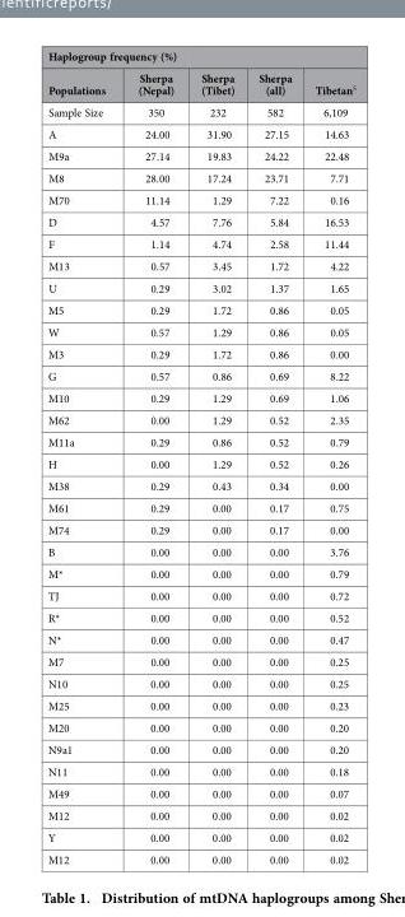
<table><thead><tr><td colspan="5">Haplogroup frequency (%)</td></tr><tr><td>Populations</td><td>Sherpa (Nepal)</td><td>Sherpa (Tibet)</td><td>Sherpa (all)</td><td>Tibetan<sup>5</sup></td></tr></thead><tbody><tr><td>Sample Size</td><td>350</td><td>232</td><td>582</td><td>6,109</td></tr><tr><td>A</td><td>24.00</td><td>31.90</td><td>27.15</td><td>14.63</td></tr><tr><td>M9a</td><td>27.14</td><td>19.83</td><td>24.22</td><td>22.48</td></tr><tr><td>M8</td><td>28.00</td><td>17.24</td><td>23.71</td><td>7.71</td></tr><tr><td>M70</td><td>11.14</td><td>1.29</td><td>7.22</td><td>0.16</td></tr><tr><td>D</td><td>4.57</td><td>7.76</td><td>5.84</td><td>16.53</td></tr><tr><td>F</td><td>1.14</td><td>4.74</td><td>2.58</td><td>11.44</td></tr><tr><td>M13</td><td>0.57</td><td>3.45</td><td>1.72</td><td>4.22</td></tr><tr><td>U</td><td>0.29</td><td>3.02</td><td>1.37</td><td>1.65</td></tr><tr><td>M5</td><td>0.29</td><td>1.72</td><td>0.86</td><td>0.05</td></tr><tr><td>W</td><td>0.57</td><td>1.29</td><td>0.86</td><td>0.05</td></tr><tr><td>M3</td><td>0.29</td><td>1.72</td><td>0.86</td><td>0.00</td></tr><tr><td>G</td><td>0.57</td><td>0.86</td><td>0.69</td><td>8.22</td></tr><tr><td>M10</td><td>0.29</td><td>1.29</td><td>0.69</td><td>1.06</td></tr><tr><td>M62</td><td>0.00</td><td>1.29</td><td>0.52</td><td>2.35</td></tr><tr><td>M11a</td><td>0.29</td><td>0.86</td><td>0.52</td><td>0.79</td></tr><tr><td>H</td><td>0.00</td><td>1.29</td><td>0.52</td><td>0.26</td></tr><tr><td>M38</td><td>0.29</td><td>0.43</td><td>0.34</td><td>0.00</td></tr><tr><td>M61</td><td>0.29</td><td>0.00</td><td>0.17</td><td>0.75</td></tr><tr><td>M74</td><td>0.29</td><td>0.00</td><td>0.17</td><td>0.00</td></tr><tr><td>B</td><td>0.00</td><td>0.00</td><td>0.00</td><td>3.76</td></tr><tr><td>M*</td><td>0.00</td><td>0.00</td><td>0.00</td><td>0.79</td></tr><tr><td>TJ</td><td>0.00</td><td>0.00</td><td>0.00</td><td>0.72</td></tr><tr><td>R*</td><td>0.00</td><td>0.00</td><td>0.00</td><td>0.52</td></tr><tr><td>N*</td><td>0.00</td><td>0.00</td><td>0.00</td><td>0.47</td></tr><tr><td>M7</td><td>0.00</td><td>0.00</td><td>0.00</td><td>0.25</td></tr><tr><td>N10</td><td>0.00</td><td>0.00</td><td>0.00</td><td>0.25</td></tr><tr><td>M25</td><td>0.00</td><td>0.00</td><td>0.00</td><td>0.23</td></tr><tr><td>M20</td><td>0.00</td><td>0.00</td><td>0.00</td><td>0.20</td></tr><tr><td>N9a1</td><td>0.00</td><td>0.00</td><td>0.00</td><td>0.20</td></tr><tr><td>N11</td><td>0.00</td><td>0.00</td><td>0.00</td><td>0.18</td></tr><tr><td>M49</td><td>0.00</td><td>0.00</td><td>0.00</td><td>0.07</td></tr><tr><td>M12</td><td>0.00</td><td>0.00</td><td>0.00</td><td>0.02</td></tr><tr><td>Y</td><td>0.00</td><td>0.00</td><td>0.00</td><td>0.02</td></tr><tr><td>M12</td><td>0.00</td><td>0.00</td><td>0.00</td><td>0.02</td></tr></tbody></table>